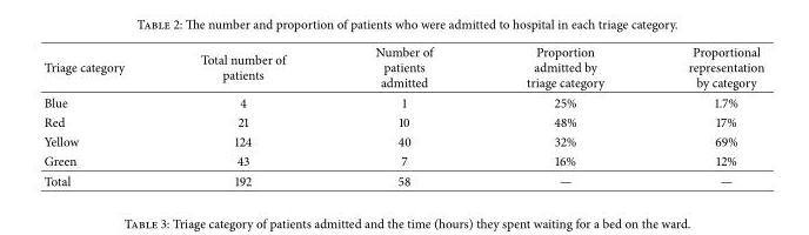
<table><thead><tr><td>Triage category</td><td>Total number of patients</td><td>Number of patients admitted</td><td>Proportion admitted by triage category</td><td>Proportional representation by category</td></tr></thead><tbody><tr><td>Blue</td><td>4</td><td>1</td><td>25%</td><td>1.7%</td></tr><tr><td>Red</td><td>21</td><td>10</td><td>48%</td><td>17%</td></tr><tr><td>Yellow</td><td>124</td><td>40</td><td>32%</td><td>69%</td></tr><tr><td>Green</td><td>43</td><td>7</td><td>16%</td><td>12%</td></tr><tr><td>Total</td><td>192</td><td>58</td><td>—</td><td>—</td></tr></tbody></table>